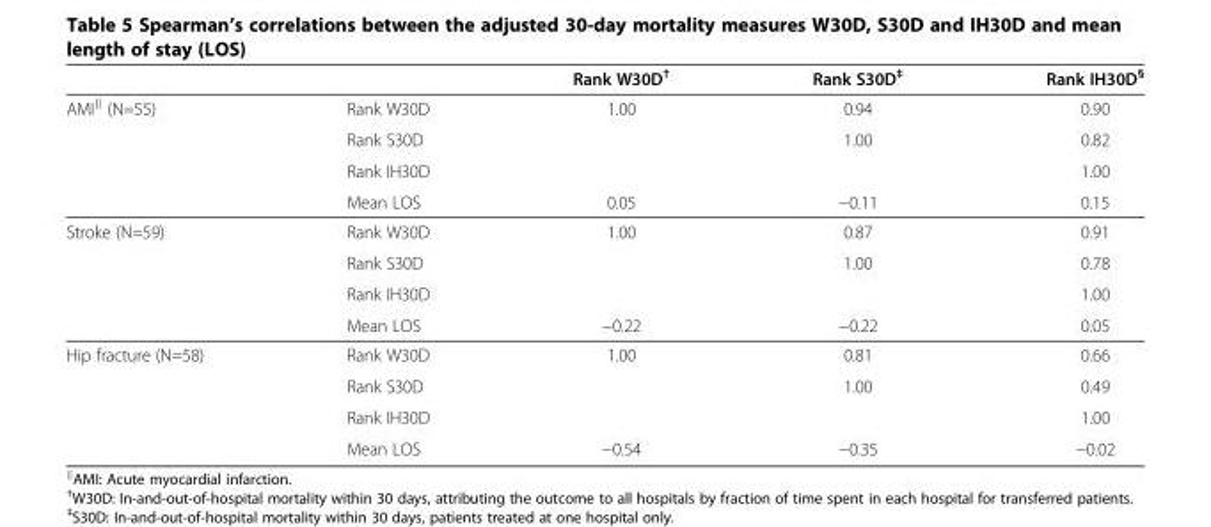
<table><thead><tr><td></td><td></td><td>Rank W30D<sup>†</sup></td><td>Rank S30D<sup>‡</sup></td><td>Rank IH30D<sup>§</sup></td></tr></thead><tbody><tr><td rowspan="4">AMI<sup>∥</sup> (N=55)</td><td>Rank W30D</td><td>1.00</td><td>0.94</td><td>0.90</td></tr><tr><td>Rank S30D</td><td></td><td>1.00</td><td>0.82</td></tr><tr><td>Rank IH30D</td><td></td><td></td><td>1.00</td></tr><tr><td>Mean LOS</td><td>0.05</td><td>−0.11</td><td>0.15</td></tr><tr><td rowspan="4">Stroke (N=59)</td><td>Rank W30D</td><td>1.00</td><td>0.87</td><td>0.91</td></tr><tr><td>Rank S30D</td><td></td><td>1.00</td><td>0.78</td></tr><tr><td>Rank IH30D</td><td></td><td></td><td>1.00</td></tr><tr><td>Mean LOS</td><td>−0.22</td><td>−0.22</td><td>0.05</td></tr><tr><td rowspan="4">Hip fracture (N=58)</td><td>Rank W30D</td><td>1.00</td><td>0.81</td><td>0.66</td></tr><tr><td>Rank S30D</td><td></td><td>1.00</td><td>0.49</td></tr><tr><td>Rank IH30D</td><td></td><td></td><td>1.00</td></tr><tr><td>Mean LOS</td><td>−0.54</td><td>−0.35</td><td>−0.02</td></tr></tbody></table>